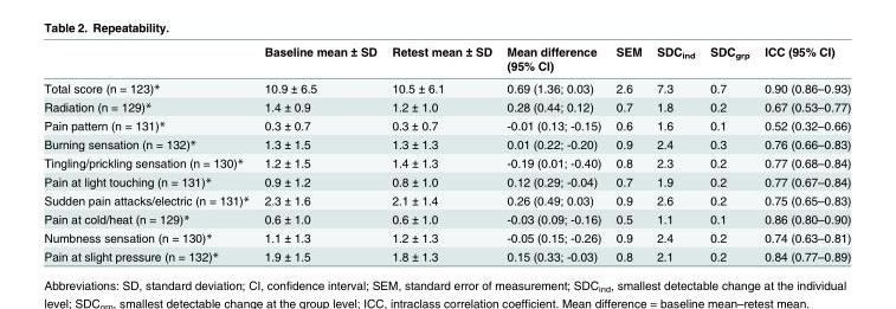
<table><thead><tr><td></td><td>Baseline mean ± SD</td><td>Retest mean ± SD</td><td>Mean difference (95% CI)</td><td>SEM</td><td>SDC<sub>ind</sub></td><td>SDC<sub>grp</sub></td><td>ICC (95% CI)</td></tr></thead><tbody><tr><td>Total score (n = 123)*</td><td>10.9 ± 6.5</td><td>10.5 ± 6.1</td><td>0.69 (1.36; 0.03)</td><td>2.6</td><td>7.3</td><td>0.7</td><td>0.90 (0.86–0.93)</td></tr><tr><td>Radiation (n = 129)*</td><td>1.4 ± 0.9</td><td>1.2 ± 1.0</td><td>0.28 (0.44; 0.12)</td><td>0.7</td><td>1.8</td><td>0.2</td><td>0.67 (0.53–0.77)</td></tr><tr><td>Pain pattern (n = 131)*</td><td>0.3 ± 0.7</td><td>0.3 ± 0.7</td><td>-0.01 (0.13; -0.15)</td><td>0.6</td><td>1.6</td><td>0.1</td><td>0.52 (0.32–0.66)</td></tr><tr><td>Burning sensation (n = 132)*</td><td>1.3 ± 1.5</td><td>1.3 ± 1.3</td><td>0.01 (0.22; -0.20)</td><td>0.9</td><td>2.4</td><td>0.3</td><td>0.76 (0.66–0.83)</td></tr><tr><td>Tingling/prickling sensation (n = 130)*</td><td>1.2 ± 1.5</td><td>1.4 ± 1.3</td><td>-0.19 (0.01; -0.40)</td><td>0.8</td><td>2.3</td><td>0.2</td><td>0.77 (0.68–0.84)</td></tr><tr><td>Pain at light touching (n = 131)*</td><td>0.9 ± 1.2</td><td>0.8 ± 1.0</td><td>0.12 (0.29; -0.04)</td><td>0.7</td><td>1.9</td><td>0.2</td><td>0.77 (0.67–0.84)</td></tr><tr><td>Sudden pain attacks/electric (n = 131)*</td><td>2.3 ± 1.6</td><td>2.1 ± 1.4</td><td>0.26 (0.49; 0.03)</td><td>0.9</td><td>2.6</td><td>0.2</td><td>0.75 (0.65–0.83)</td></tr><tr><td>Pain at cold/heat (n = 129)*</td><td>0.6 ± 1.0</td><td>0.6 ± 1.0</td><td>-0.03 (0.09; -0.16)</td><td>0.5</td><td>1.1</td><td>0.1</td><td>0.86 (0.80–0.90)</td></tr><tr><td>Numbness sensation (n = 130)*</td><td>1.1 ± 1.3</td><td>1.2 ± 1.3</td><td>-0.05 (0.15; -0.26)</td><td>0.9</td><td>2.4</td><td>0.2</td><td>0.74 (0.63–0.81)</td></tr><tr><td>Pain at slight pressure (n = 132)*</td><td>1.9 ± 1.5</td><td>1.8 ± 1.3</td><td>0.15 (0.33; -0.03)</td><td>0.8</td><td>2.1</td><td>0.2</td><td>0.84 (0.77–0.89)</td></tr></tbody></table>